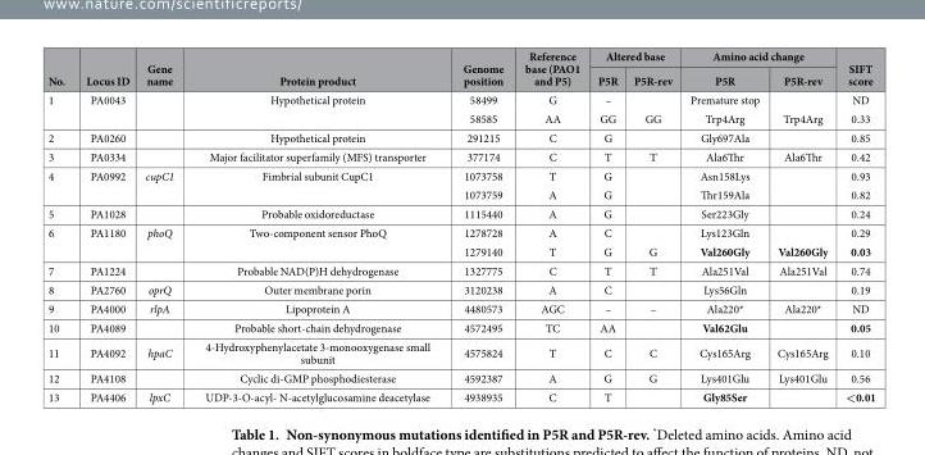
<table><thead><tr><td rowspan="2">No.</td><td rowspan="2">Locus ID</td><td rowspan="2">Gene name</td><td rowspan="2">Protein product</td><td rowspan="2">Genome position</td><td rowspan="2">Reference base (PAO1 and P5)</td><td colspan="2">Altered base</td><td colspan="2">Amino acid change</td><td rowspan="2">SIFT score</td></tr><tr><td>P5R</td><td>P5R-rev</td><td>P5R</td><td>P5R-rev</td></tr></thead><tbody><tr><td rowspan="2">1</td><td>PA0043</td><td></td><td>Hypothetical protein</td><td>58499</td><td>G</td><td>–</td><td></td><td>Premature stop</td><td></td><td>ND</td></tr><tr><td></td><td></td><td></td><td>58585</td><td>AA</td><td>GG</td><td>GG</td><td>Trp4Arg</td><td>Trp4Arg</td><td>0.33</td></tr><tr><td>2</td><td>PA0260</td><td></td><td>Hypothetical protein</td><td>291215</td><td>C</td><td>G</td><td></td><td>Gly697Ala</td><td></td><td>0.85</td></tr><tr><td>3</td><td>PA0334</td><td></td><td>Major facilitator superfamily (MFS) transporter</td><td>377174</td><td>C</td><td>T</td><td>T</td><td>Ala6Thr</td><td>Ala6Thr</td><td>0.42</td></tr><tr><td rowspan="2">4</td><td>PA0992</td><td>cupC1</td><td>Fimbrial subunit CupC1</td><td>1073758</td><td>T</td><td>G</td><td></td><td>Asn158Lys</td><td></td><td>0.93</td></tr><tr><td></td><td></td><td></td><td>1073759</td><td>A</td><td>G</td><td></td><td>Thr159Ala</td><td></td><td>0.82</td></tr><tr><td>5</td><td>PA1028</td><td></td><td>Probable oxidoreductase</td><td>1115440</td><td>A</td><td>G</td><td></td><td>Ser223Gly</td><td></td><td>0.24</td></tr><tr><td rowspan="2">6</td><td>PA1180</td><td>phoQ</td><td>Two-component sensor PhoQ</td><td>1278728</td><td>A</td><td>C</td><td></td><td>Lys123Gln</td><td></td><td>0.29</td></tr><tr><td></td><td></td><td></td><td>1279140</td><td>T</td><td>G</td><td>G</td><td>Val260Gly</td><td>Val260Gly</td><td>0.03</td></tr><tr><td>7</td><td>PA1224</td><td></td><td>Probable NAD(P)H dehydrogenase</td><td>1327775</td><td>C</td><td>T</td><td>T</td><td>Ala251Val</td><td>Ala251Val</td><td>0.74</td></tr><tr><td>8</td><td>PA2760</td><td>oprQ</td><td>Outer membrane porin</td><td>3120238</td><td>A</td><td>C</td><td></td><td>Lys56Gln</td><td></td><td>0.19</td></tr><tr><td>9</td><td>PA4000</td><td>rlpA</td><td>Lipoprotein A</td><td>4480573</td><td>AGC</td><td>–</td><td>–</td><td>Ala220*</td><td>Ala220*</td><td>ND</td></tr><tr><td>10</td><td>PA4089</td><td></td><td>Probable short-chain dehydrogenase</td><td>4572495</td><td>TC</td><td>AA</td><td></td><td>Val62Glu</td><td></td><td>0.05</td></tr><tr><td>11</td><td>PA4092</td><td>hpaC</td><td>4-Hydroxyphenylacetate 3-monooxygenase small subunit</td><td>4575824</td><td>T</td><td>C</td><td>C</td><td>Cys165Arg</td><td>Cys165Arg</td><td>0.10</td></tr><tr><td>12</td><td>PA4108</td><td></td><td>Cyclic di-GMP phosphodiesterase</td><td>4592387</td><td>A</td><td>G</td><td>G</td><td>Lys401Glu</td><td>Lys401Glu</td><td>0.56</td></tr><tr><td>13</td><td>PA4406</td><td>lpxC</td><td>UDP-3-O-acyl- N-acetylglucosamine deacetylase</td><td>4938935</td><td>C</td><td>T</td><td></td><td>Gly85Ser</td><td></td><td>&lt;0.01</td></tr></tbody></table>